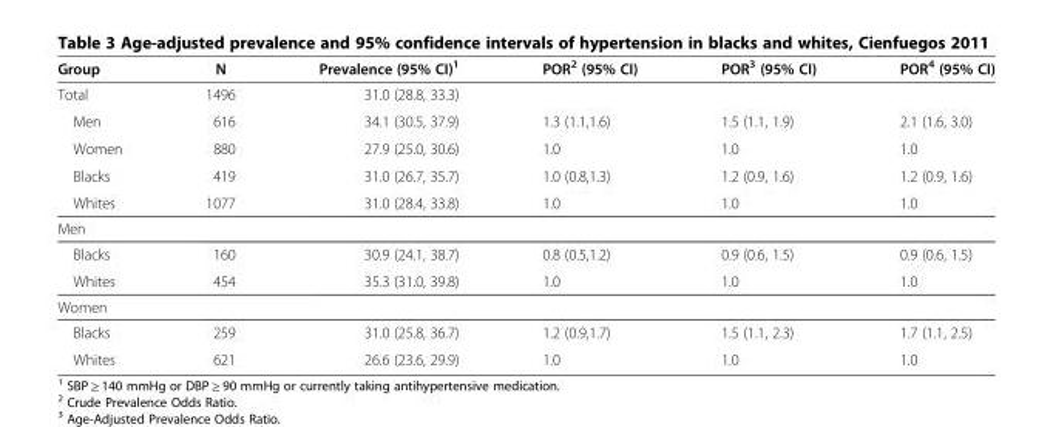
<table><thead><tr><td>Group</td><td>N</td><td>Prevalence (95% CI)<sup>1</sup></td><td>POR<sup>2</sup> (95% CI)</td><td>POR<sup>3</sup> (95% CI)</td><td>POR<sup>4</sup> (95% CI)</td></tr></thead><tbody><tr><td>Total</td><td>1496</td><td>31.0 (28.8, 33.3)</td><td></td><td></td><td></td></tr><tr><td>Men</td><td>616</td><td>34.1 (30.5, 37.9)</td><td>1.3 (1.1,1.6)</td><td>1.5 (1.1, 1.9)</td><td>2.1 (1.6, 3.0)</td></tr><tr><td>Women</td><td>880</td><td>27.9 (25.0, 30.6)</td><td>1.0</td><td>1.0</td><td>1.0</td></tr><tr><td>Blacks</td><td>419</td><td>31.0 (26.7, 35.7)</td><td>1.0 (0.8,1.3)</td><td>1.2 (0.9, 1.6)</td><td>1.2 (0.9, 1.6)</td></tr><tr><td>Whites</td><td>1077</td><td>31.0 (28.4, 33.8)</td><td>1.0</td><td>1.0</td><td>1.0</td></tr><tr><td colspan="6">Men</td></tr><tr><td>Blacks</td><td>160</td><td>30.9 (24.1, 38.7)</td><td>0.8 (0.5,1.2)</td><td>0.9 (0.6, 1.5)</td><td>0.9 (0.6, 1.5)</td></tr><tr><td>Whites</td><td>454</td><td>35.3 (31.0, 39.8)</td><td>1.0</td><td>1.0</td><td>1.0</td></tr><tr><td colspan="6">Women</td></tr><tr><td>Blacks</td><td>259</td><td>31.0 (25.8, 36.7)</td><td>1.2 (0.9,1.7)</td><td>1.5 (1.1, 2.3)</td><td>1.7 (1.1, 2.5)</td></tr><tr><td>Whites</td><td>621</td><td>26.6 (23.6, 29.9)</td><td>1.0</td><td>1.0</td><td>1.0</td></tr></tbody></table>